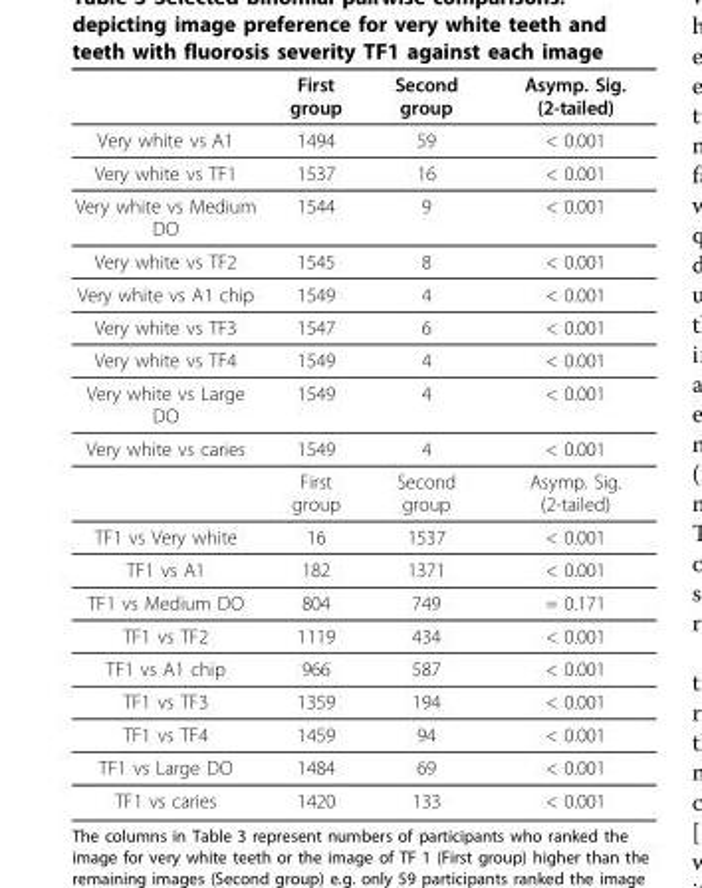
<table><thead><tr><td></td><td>First group</td><td>Second group</td><td>Asymp. Sig. (2-tailed)</td></tr></thead><tbody><tr><td>Very white vs A1</td><td>1494</td><td>59</td><td>&lt; 0.001</td></tr><tr><td>Very white vs TF1</td><td>1537</td><td>16</td><td>&lt; 0.001</td></tr><tr><td>Very white vs Medium DO</td><td>1544</td><td>9</td><td>&lt; 0.001</td></tr><tr><td>Very white vs TF2</td><td>1545</td><td>8</td><td>&lt; 0.001</td></tr><tr><td>Very white vs A1 chip</td><td>1549</td><td>4</td><td>&lt; 0.001</td></tr><tr><td>Very white vs TF3</td><td>1547</td><td>6</td><td>&lt; 0.001</td></tr><tr><td>Very white vs TF4</td><td>1549</td><td>4</td><td>&lt; 0.001</td></tr><tr><td>Very white vs Large DO</td><td>1549</td><td>4</td><td>&lt; 0.001</td></tr><tr><td rowspan="2">Very white vs caries</td><td>1549</td><td>4</td><td>&lt; 0.001</td></tr><tr><td>First group</td><td>Second group</td><td>Asymp. Sig. (2-tailed)</td></tr><tr><td>TF1 vs Very white</td><td>16</td><td>1537</td><td>&lt; 0.001</td></tr><tr><td>TF1 vs A1</td><td>182</td><td>1371</td><td>&lt; 0.001</td></tr><tr><td>TF1 vs Medium DO</td><td>804</td><td>749</td><td>= 0.171</td></tr><tr><td>TF1 vs TF2</td><td>1119</td><td>434</td><td>&lt; 0.001</td></tr><tr><td>TF1 vs A1 chip</td><td>966</td><td>587</td><td>&lt; 0.001</td></tr><tr><td>TF1 vs TF3</td><td>1359</td><td>194</td><td>&lt; 0.001</td></tr><tr><td>TF1 vs TF4</td><td>1459</td><td>94</td><td>&lt; 0.001</td></tr><tr><td>TF1 vs Large DO</td><td>1484</td><td>69</td><td>&lt; 0.001</td></tr><tr><td>TF1 vs caries</td><td>1420</td><td>133</td><td>&lt; 0.001</td></tr></tbody></table>